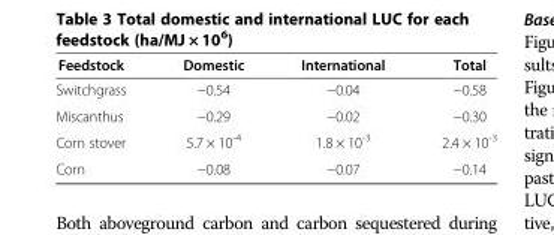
<table><thead><tr><td>Feedstock</td><td>Domestic</td><td>International</td><td>Total</td></tr></thead><tbody><tr><td>Switchgrass</td><td>−0.54</td><td>−0.04</td><td>−0.58</td></tr><tr><td>Miscanthus</td><td>−0.29</td><td>−0.02</td><td>−0.30</td></tr><tr><td>Corn stover</td><td>5.7 × 10<sup>-4</sup></td><td>1.8 × 10<sup>-3</sup></td><td>2.4 × 10<sup>-3</sup></td></tr><tr><td>Corn</td><td>−0.08</td><td>−0.07</td><td>−0.14</td></tr></tbody></table>